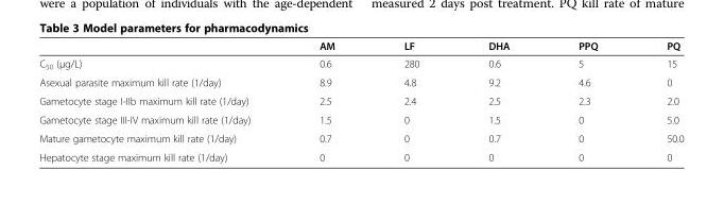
<table><thead><tr><td></td><td>AM</td><td>LF</td><td>DHA</td><td>PPQ</td><td>PQ</td></tr></thead><tbody><tr><td>C<sub>50</sub> (μg/L)</td><td>0.6</td><td>280</td><td>0.6</td><td>5</td><td>15</td></tr><tr><td>Asexual parasite maximum kill rate (1/day)</td><td>8.9</td><td>4.8</td><td>9.2</td><td>4.6</td><td>0</td></tr><tr><td>Gametocyte stage I-IIb maximum kill rate (1/day)</td><td>2.5</td><td>2.4</td><td>2.5</td><td>2.3</td><td>2.0</td></tr><tr><td>Gametocyte stage III-IV maximum kill rate (1/day)</td><td>1.5</td><td>0</td><td>1.5</td><td>0</td><td>5.0</td></tr><tr><td>Mature gametocyte maximum kill rate (1/day)</td><td>0.7</td><td>0</td><td>0.7</td><td>0</td><td>50.0</td></tr><tr><td>Hepatocyte stage maximum kill rate (1/day)</td><td>0</td><td>0</td><td>0</td><td>0</td><td>0</td></tr></tbody></table>